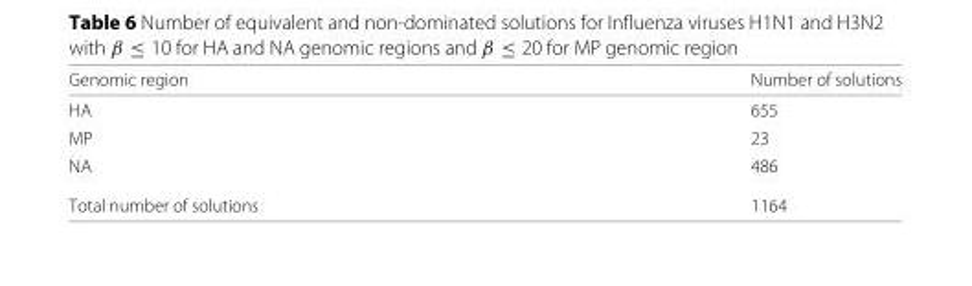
<table><thead><tr><td>Genomic region</td><td>Number of solutions</td></tr></thead><tbody><tr><td>HA</td><td>655</td></tr><tr><td>MP</td><td>23</td></tr><tr><td>NA</td><td>486</td></tr><tr><td>Total number of solutions</td><td>1164</td></tr></tbody></table>